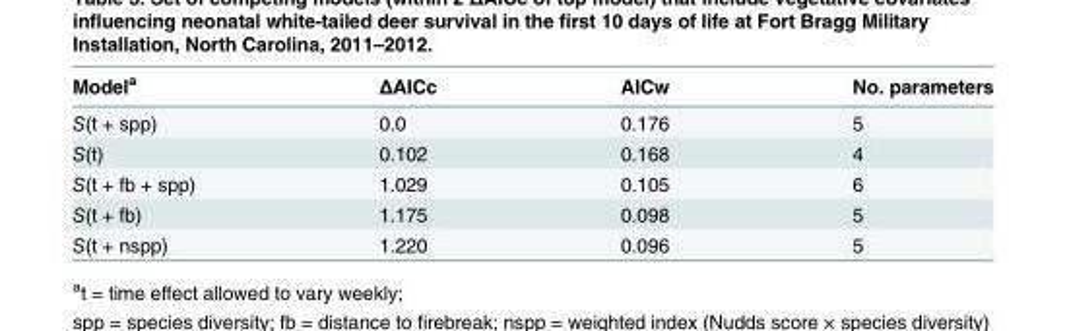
<table><thead><tr><td>Model<sup>a</sup></td><td>ΔAICc</td><td>AICw</td><td>No. parameters</td></tr></thead><tbody><tr><td>S(t + spp)</td><td>0.0</td><td>0.176</td><td>5</td></tr><tr><td>S(t)</td><td>0.102</td><td>0.168</td><td>4</td></tr><tr><td>S(t + fb + spp)</td><td>1.029</td><td>0.105</td><td>6</td></tr><tr><td>S(t + fb)</td><td>1.175</td><td>0.098</td><td>5</td></tr><tr><td>S(t + nspp)</td><td>1.220</td><td>0.096</td><td>5</td></tr></tbody></table>